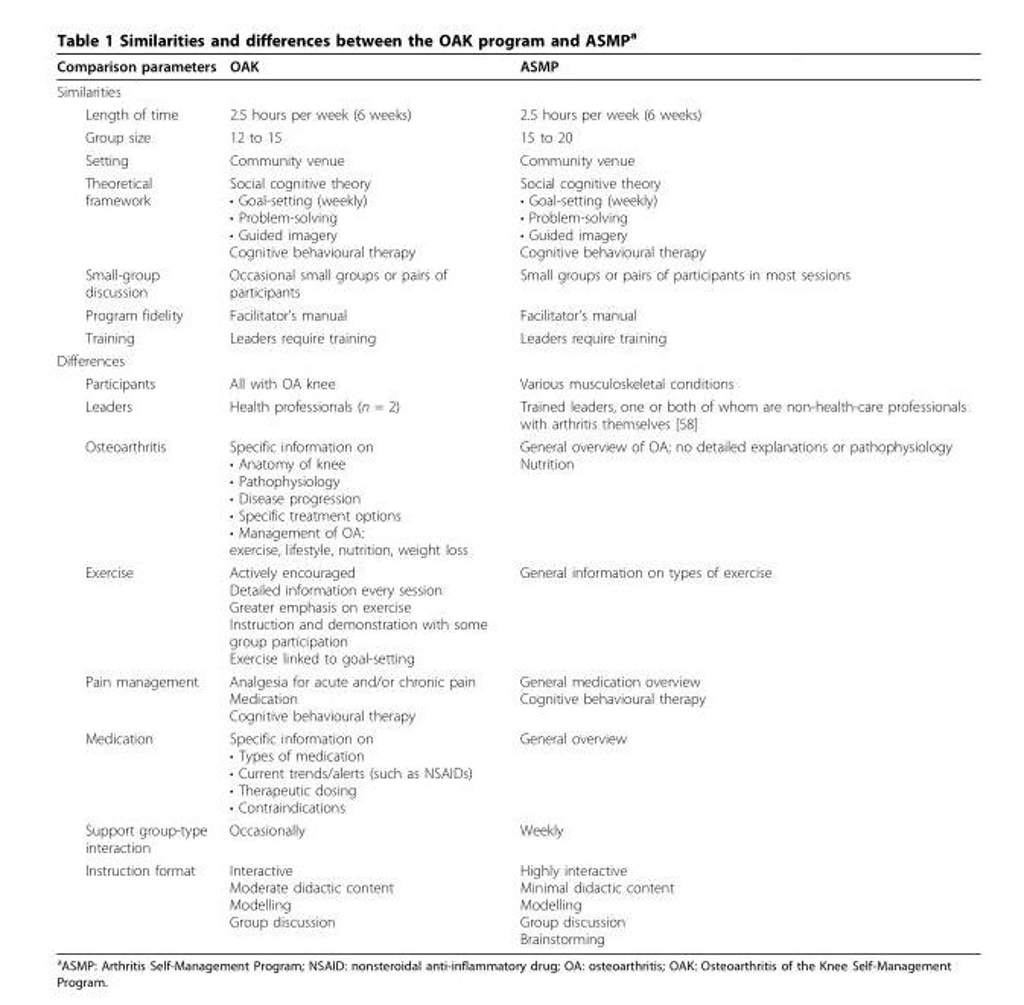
<table><thead><tr><td>Comparison parameters</td><td>OAK</td><td>ASMP</td></tr></thead><tbody><tr><td colspan="3">Similarities</td></tr><tr><td>Length of time</td><td>2.5 hours per week (6 weeks)</td><td>2.5 hours per week (6 weeks)</td></tr><tr><td>Group size</td><td>12 to 15</td><td>15 to 20</td></tr><tr><td>Setting</td><td>Community venue</td><td>Community venue</td></tr><tr><td>Theoretical framework</td><td>Social cognitive theory • Goal-setting (weekly) • Problem-solving • Guided imagery Cognitive behavioural therapy</td><td>Social cognitive theory • Goal-setting (weekly) • Problem-solving • Guided imagery Cognitive behavioural therapy</td></tr><tr><td>Small-group discussion</td><td>Occasional small groups or pairs of participants</td><td>Small groups or pairs of participants in most sessions</td></tr><tr><td>Program fidelity</td><td>Facilitator’s manual</td><td>Facilitator’s manual</td></tr><tr><td>Training</td><td>Leaders require training</td><td>Leaders require training</td></tr><tr><td colspan="3">Differences</td></tr><tr><td>Participants</td><td>All with OA knee</td><td>Various musculoskeletal conditions</td></tr><tr><td>Leaders</td><td>Health professionals (n = 2)</td><td>Trained leaders, one or both of whom are non-health-care professionals with arthritis themselves [58]</td></tr><tr><td>Osteoarthritis</td><td>Specific information on • Anatomy of knee • Pathophysiology • Disease progression • Specific treatment options • Management of OA: exercise, lifestyle, nutrition, weight loss</td><td>General overview of OA; no detailed explanations or pathophysiology Nutrition</td></tr><tr><td>Exercise</td><td>Actively encouraged Detailed information every session Greater emphasis on exercise Instruction and demonstration with some group participation Exercise linked to goal-setting</td><td>General information on types of exercise</td></tr><tr><td>Pain management</td><td>Analgesia for acute and/or chronic pain Medication Cognitive behavioural therapy</td><td>General medication overview Cognitive behavioural therapy</td></tr><tr><td>Medication</td><td>Specific information on • Types of medication • Current trends/alerts (such as NSAIDs) • Therapeutic dosing • Contraindications</td><td>General overview</td></tr><tr><td>Support group-type interaction</td><td>Occasionally</td><td>Weekly</td></tr><tr><td>Instruction format</td><td>Interactive Moderate didactic content Modelling Group discussion</td><td>Highly interactive Minimal didactic content Modelling Group discussion Brainstorming</td></tr></tbody></table>